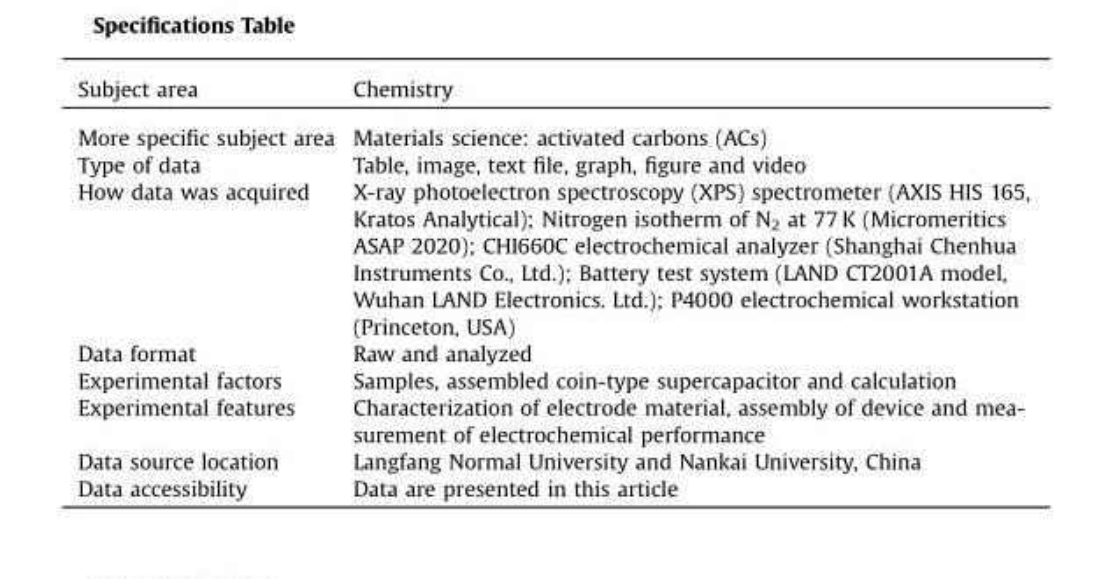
<table><thead><tr><td>Subject area</td><td>Chemistry</td></tr></thead><tbody><tr><td>More specific subject area</td><td>Materials science: activated carbons (ACs)</td></tr><tr><td>Type of data</td><td>Table, image, text file, graph, figure and video</td></tr><tr><td>How data was acquired</td><td>X-ray photoelectron spectroscopy (XPS) spectrometer (AXIS HIS 165, Kratos Analytical); Nitrogen isotherm of N<sub>2</sub> at 77 K (Micromeritics ASAP 2020); CHI660C electrochemical analyzer (Shanghai Chenhua Instruments Co., Ltd.); Battery test system (LAND CT2001A model, Wuhan LAND Electronics. Ltd.); P4000 electrochemical workstation (Princeton, USA)</td></tr><tr><td>Data format</td><td>Raw and analyzed</td></tr><tr><td>Experimental factors</td><td>Samples, assembled coin-type supercapacitor and calculation</td></tr><tr><td>Experimental features</td><td>Characterization of electrode material, assembly of device and mea- surement of electrochemical performance</td></tr><tr><td>Data source location</td><td>Langfang Normal University and Nankai University, China</td></tr><tr><td>Data accessibility</td><td>Data are presented in this article</td></tr></tbody></table>